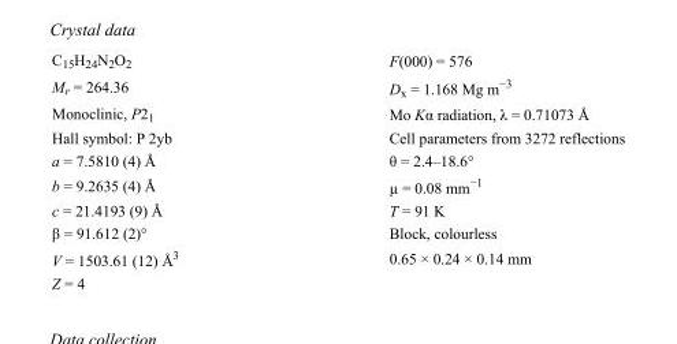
<table><tbody><tr><td>C<sub>15</sub>H<sub>24</sub>N<sub>2</sub>O<sub>2</sub></td><td>F(000) = 576</td></tr><tr><td>M<sub>r</sub> = 264.36</td><td>D<sub>x</sub> = 1.168 Mg m<sup>−3</sup></td></tr><tr><td>Monoclinic, P2<sub>1</sub></td><td>Mo Kα radiation, λ = 0.71073 Å</td></tr><tr><td>Hall symbol: P 2yb</td><td>Cell parameters from 3272 reflections</td></tr><tr><td>a = 7.5810 (4) Å</td><td>θ = 2.4–18.6°</td></tr><tr><td>b = 9.2635 (4) Å</td><td>µ = 0.08 mm<sup>−1</sup></td></tr><tr><td>c = 21.4193 (9) Å</td><td>T = 91 K</td></tr><tr><td>β = 91.612 (2)°</td><td>Block, colourless</td></tr><tr><td>V = 1503.61 (12) Å<sup>3</sup></td><td>0.65 × 0.24 × 0.14 mm</td></tr><tr><td>Z = 4</td><td></td></tr></tbody></table>